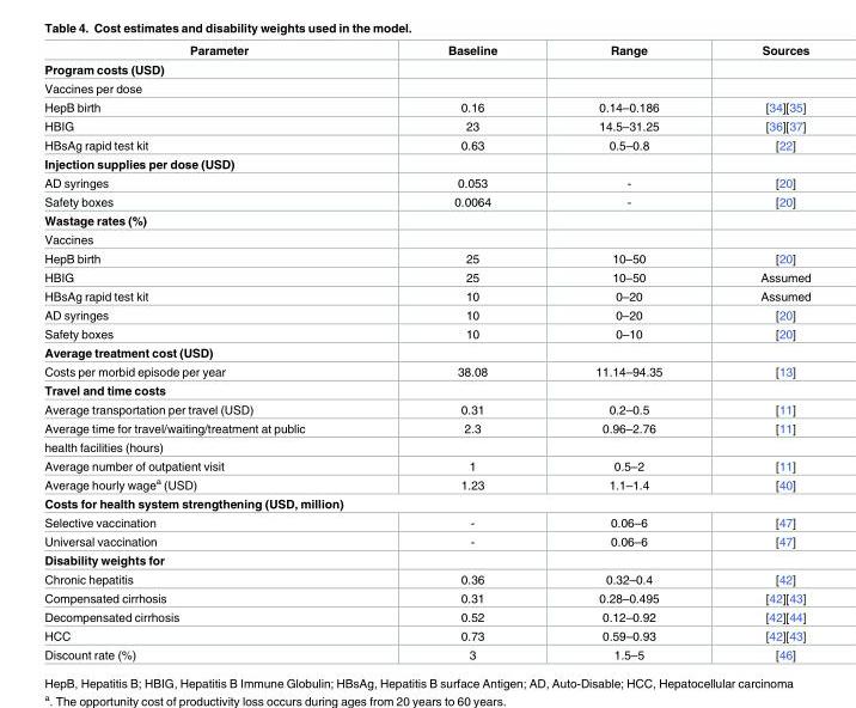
<table><thead><tr><td>Parameter</td><td>Baseline</td><td>Range</td><td>Sources</td></tr></thead><tbody><tr><td colspan="4">Program costs (USD)</td></tr><tr><td colspan="4">Vaccines per dose</td></tr><tr><td>HepB birth</td><td>0.16</td><td>0.14–0.186</td><td>[34][35]</td></tr><tr><td>HBIG</td><td>23</td><td>14.5–31.25</td><td>[36][37]</td></tr><tr><td>HBsAg rapid test kit</td><td>0.63</td><td>0.5–0.8</td><td>[22]</td></tr><tr><td colspan="4">Injection supplies per dose (USD)</td></tr><tr><td>AD syringes</td><td>0.053</td><td>-</td><td>[20]</td></tr><tr><td>Safety boxes</td><td>0.0064</td><td>-</td><td>[20]</td></tr><tr><td colspan="4">Wastage rates (%)</td></tr><tr><td colspan="4">Vaccines</td></tr><tr><td>HepB birth</td><td>25</td><td>10–50</td><td>[20]</td></tr><tr><td>HBIG</td><td>25</td><td>10–50</td><td>Assumed</td></tr><tr><td>HBsAg rapid test kit</td><td>10</td><td>0–20</td><td>Assumed</td></tr><tr><td>AD syringes</td><td>10</td><td>0–20</td><td>[20]</td></tr><tr><td>Safety boxes</td><td>10</td><td>0–10</td><td>[20]</td></tr><tr><td colspan="4">Average treatment cost (USD)</td></tr><tr><td>Costs per morbid episode per year</td><td>38.08</td><td>11.14–94.35</td><td>[13]</td></tr><tr><td colspan="4">Travel and time costs</td></tr><tr><td>Average transportation per travel (USD)</td><td>0.31</td><td>0.2–0.5</td><td>[11]</td></tr><tr><td>Average time for travel/waiting/treatment at public</td><td>2.3</td><td>0.96–2.76</td><td>[11]</td></tr><tr><td colspan="4">health facilities (hours)</td></tr><tr><td>Average number of outpatient visit</td><td>1</td><td>0.5–2</td><td>[11]</td></tr><tr><td>Average hourly wage<sup>a</sup> (USD)</td><td>1.23</td><td>1.1–1.4</td><td>[40]</td></tr><tr><td colspan="4">Costs for health system strengthening (USD, million)</td></tr><tr><td>Selective vaccination</td><td>-</td><td>0.06–6</td><td>[47]</td></tr><tr><td>Universal vaccination</td><td>-</td><td>0.06–6</td><td>[47]</td></tr><tr><td colspan="4">Disability weights for</td></tr><tr><td>Chronic hepatitis</td><td>0.36</td><td>0.32–0.4</td><td>[42]</td></tr><tr><td>Compensated cirrhosis</td><td>0.31</td><td>0.28–0.495</td><td>[42][43]</td></tr><tr><td>Decompensated cirrhosis</td><td>0.52</td><td>0.12–0.92</td><td>[42][44]</td></tr><tr><td>HCC</td><td>0.73</td><td>0.59–0.93</td><td>[42][43]</td></tr><tr><td>Discount rate (%)</td><td>3</td><td>1.5–5</td><td>[46]</td></tr></tbody></table>